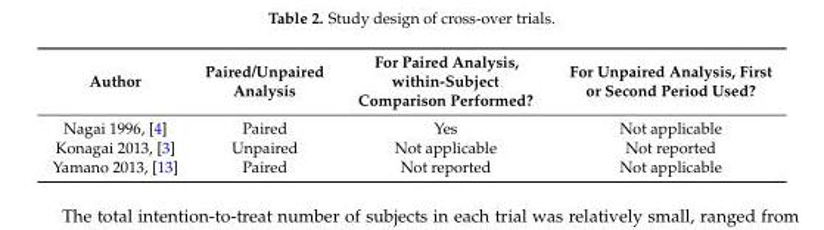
<table><thead><tr><td>Author</td><td>Paired/Unpaired Analysis</td><td>For Paired Analysis, within-Subject Comparison Performed?</td><td>For Unpaired Analysis, First or Second Period Used?</td></tr></thead><tbody><tr><td>Nagai 1996, [4]</td><td>Paired</td><td>Yes</td><td>Not applicable</td></tr><tr><td>Konagai 2013, [3]</td><td>Unpaired</td><td>Not applicable</td><td>Not reported</td></tr><tr><td>Yamano 2013, [13]</td><td>Paired</td><td>Not reported</td><td>Not applicable</td></tr></tbody></table>